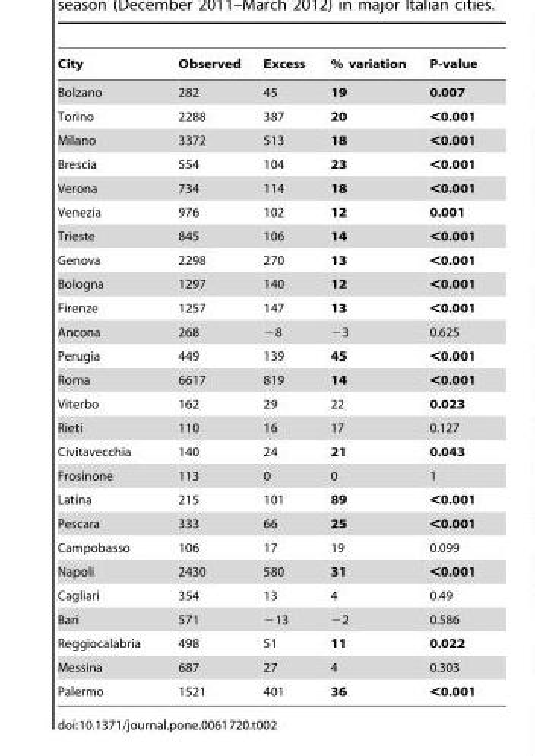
<table><thead><tr><td>City</td><td>Observed</td><td>Excess</td><td>% variation</td><td>P-value</td></tr></thead><tbody><tr><td>Bolzano</td><td>282</td><td>45</td><td>19</td><td>0.007</td></tr><tr><td>Torino</td><td>2288</td><td>387</td><td>20</td><td>&lt;0.001</td></tr><tr><td>Milano</td><td>3372</td><td>513</td><td>18</td><td>&lt;0.001</td></tr><tr><td>Brescia</td><td>554</td><td>104</td><td>23</td><td>&lt;0.001</td></tr><tr><td>Verona</td><td>734</td><td>114</td><td>18</td><td>&lt;0.001</td></tr><tr><td>Venezia</td><td>976</td><td>102</td><td>12</td><td>0.001</td></tr><tr><td>Trieste</td><td>845</td><td>106</td><td>14</td><td>&lt;0.001</td></tr><tr><td>Genova</td><td>2298</td><td>270</td><td>13</td><td>&lt;0.001</td></tr><tr><td>Bologna</td><td>1297</td><td>140</td><td>12</td><td>&lt;0.001</td></tr><tr><td>Firenze</td><td>1257</td><td>147</td><td>13</td><td>&lt;0.001</td></tr><tr><td>Ancona</td><td>268</td><td>−8</td><td>−3</td><td>0.625</td></tr><tr><td>Perugia</td><td>449</td><td>139</td><td>45</td><td>&lt;0.001</td></tr><tr><td>Roma</td><td>6617</td><td>819</td><td>14</td><td>&lt;0.001</td></tr><tr><td>Viterbo</td><td>162</td><td>29</td><td>22</td><td>0.023</td></tr><tr><td>Rieti</td><td>110</td><td>16</td><td>17</td><td>0.127</td></tr><tr><td>Civitavecchia</td><td>140</td><td>24</td><td>21</td><td>0.043</td></tr><tr><td>Frosinone</td><td>113</td><td>0</td><td>0</td><td>1</td></tr><tr><td>Latina</td><td>215</td><td>101</td><td>89</td><td>&lt;0.001</td></tr><tr><td>Pescara</td><td>333</td><td>66</td><td>25</td><td>&lt;0.001</td></tr><tr><td>Campobasso</td><td>106</td><td>17</td><td>19</td><td>0.099</td></tr><tr><td>Napoli</td><td>2430</td><td>580</td><td>31</td><td>&lt;0.001</td></tr><tr><td>Cagliari</td><td>354</td><td>13</td><td>4</td><td>0.49</td></tr><tr><td>Bari</td><td>571</td><td>−13</td><td>−2</td><td>0.586</td></tr><tr><td>Reggiocalabria</td><td>498</td><td>51</td><td>11</td><td>0.022</td></tr><tr><td>Messina</td><td>687</td><td>27</td><td>4</td><td>0.303</td></tr><tr><td>Palermo</td><td>1521</td><td>401</td><td>36</td><td>&lt;0.001</td></tr></tbody></table>